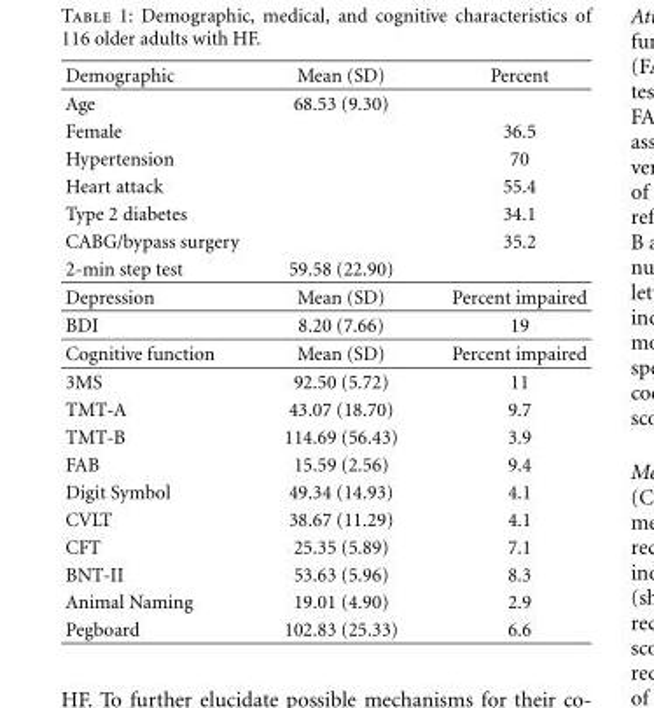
<table><thead><tr><td>Demographic</td><td>Mean (SD)</td><td>Percent</td></tr></thead><tbody><tr><td>Age</td><td>68.53 (9.30)</td><td></td></tr><tr><td>Female</td><td></td><td>36.5</td></tr><tr><td>Hypertension</td><td></td><td>70</td></tr><tr><td>Heart attack</td><td></td><td>55.4</td></tr><tr><td>Type 2 diabetes</td><td></td><td>34.1</td></tr><tr><td>CABG/bypass surgery</td><td></td><td>35.2</td></tr><tr><td>2-min step test</td><td>59.58 (22.90)</td><td></td></tr><tr><td>Depression</td><td>Mean (SD)</td><td>Percent impaired</td></tr><tr><td>BDI</td><td>8.20 (7.66)</td><td>19</td></tr><tr><td>Cognitive function</td><td>Mean (SD)</td><td>Percent impaired</td></tr><tr><td>3MS</td><td>92.50 (5.72)</td><td>11</td></tr><tr><td>TMT-A</td><td>43.07 (18.70)</td><td>9.7</td></tr><tr><td>TMT-B</td><td>114.69 (56.43)</td><td>3.9</td></tr><tr><td>FAB</td><td>15.59 (2.56)</td><td>9.4</td></tr><tr><td>Digit Symbol</td><td>49.34 (14.93)</td><td>4.1</td></tr><tr><td>CVLT</td><td>38.67 (11.29)</td><td>4.1</td></tr><tr><td>CFT</td><td>25.35 (5.89)</td><td>7.1</td></tr><tr><td>BNT-II</td><td>53.63 (5.96)</td><td>8.3</td></tr><tr><td>Animal Naming</td><td>19.01 (4.90)</td><td>2.9</td></tr><tr><td>Pegboard</td><td>102.83 (25.33)</td><td>6.6</td></tr></tbody></table>